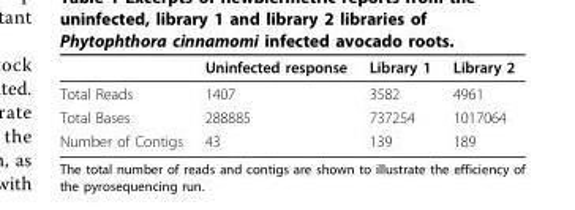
<table><thead><tr><td></td><td>Uninfected response</td><td>Library 1</td><td>Library 2</td></tr></thead><tbody><tr><td>Total Reads</td><td>1407</td><td>3582</td><td>4961</td></tr><tr><td>Total Bases</td><td>288885</td><td>737254</td><td>1017064</td></tr><tr><td>Number of Contigs</td><td>43</td><td>139</td><td>189</td></tr></tbody></table>